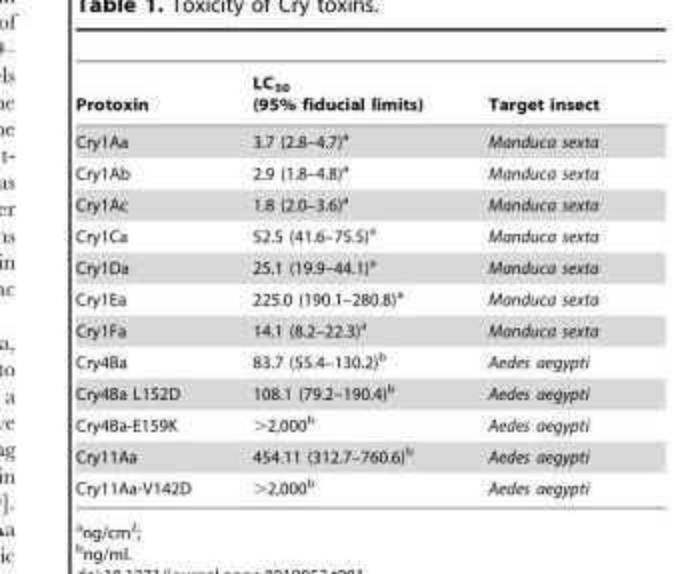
<table><thead><tr><td>Protoxin</td><td>LC<sub>50</sub> (95% fiducial limits)</td><td>Target insect</td></tr></thead><tbody><tr><td>Cry1Aa</td><td>3.7 (2.8–4.7)<sup>a</sup></td><td>Manduca sexta</td></tr><tr><td>Cry1Ab</td><td>2.9 (1.8–4.8)<sup>a</sup></td><td>Manduca sexta</td></tr><tr><td>Cry1Ac</td><td>1.8 (2.0–3.6)<sup>a</sup></td><td>Manduca sexta</td></tr><tr><td>Cry1Ca</td><td>52.5 (41.6–75.5)<sup>a</sup></td><td>Manduca sexta</td></tr><tr><td>Cry1Da</td><td>25.1 (19.9–44.1)<sup>a</sup></td><td>Manduca sexta</td></tr><tr><td>Cry1Ea</td><td>225.0 (190.1–280.8)<sup>a</sup></td><td>Manduca sexta</td></tr><tr><td>Cry1Fa</td><td>14.1 (8.2–22.3)<sup>a</sup></td><td>Manduca sexta</td></tr><tr><td>Cry4Ba</td><td>83.7 (55.4–130.2)<sup>b</sup></td><td>Aedes aegypti</td></tr><tr><td>Cry4Ba L152D</td><td>108.1 (79.2–190.4)<sup>b</sup></td><td>Aedes aegypti</td></tr><tr><td>Cry4Ba-E159K</td><td>&gt;2,000<sup>b</sup></td><td>Aedes aegypti</td></tr><tr><td>Cry11Aa</td><td>454.11 (312.7–760.6)<sup>b</sup></td><td>Aedes aegypti</td></tr><tr><td>Cry11Aa-V142D</td><td>&gt;2,000<sup>b</sup></td><td>Aedes aegypti</td></tr></tbody></table>